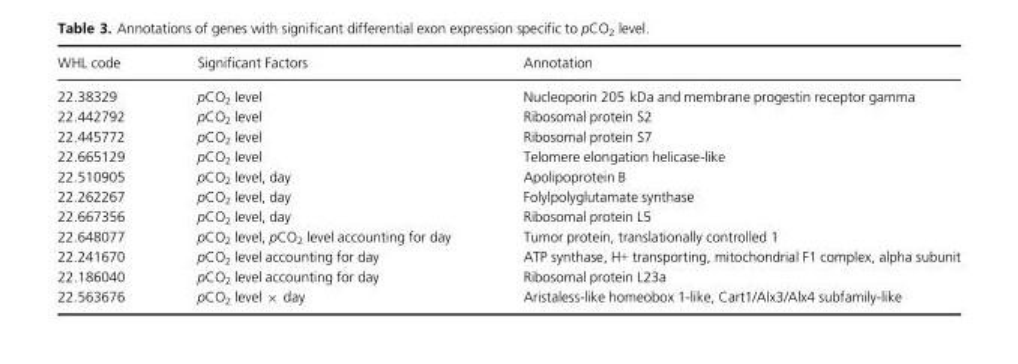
<table><thead><tr><td>WHL code</td><td>Significant Factors</td><td>Annotation</td></tr></thead><tbody><tr><td>22.38329</td><td>pCO<sub>2</sub> level</td><td>Nucleoporin 205 kDa and membrane progestin receptor gamma</td></tr><tr><td>22.442792</td><td>pCO<sub>2</sub> level</td><td>Ribosomal protein S2</td></tr><tr><td>22.445772</td><td>pCO<sub>2</sub> level</td><td>Ribosomal protein S7</td></tr><tr><td>22.665129</td><td>pCO<sub>2</sub> level</td><td>Telomere elongation helicase-like</td></tr><tr><td>22.510905</td><td>pCO<sub>2</sub> level, day</td><td>Apolipoprotein B</td></tr><tr><td>22.262267</td><td>pCO<sub>2</sub> level, day</td><td>Folylpolyglutamate synthase</td></tr><tr><td>22.667356</td><td>pCO<sub>2</sub> level, day</td><td>Ribosomal protein L5</td></tr><tr><td>22.648077</td><td>pCO<sub>2</sub> level, pCO<sub>2</sub> level accounting for day</td><td>Tumor protein, translationally controlled 1</td></tr><tr><td>22.241670</td><td>pCO<sub>2</sub> level accounting for day</td><td>ATP synthase, H+ transporting, mitochondrial F1 complex, alpha subunit</td></tr><tr><td>22.186040</td><td>pCO<sub>2</sub> level accounting for day</td><td>Ribosomal protein L23a</td></tr><tr><td>22.563676</td><td>pCO<sub>2</sub> level × day</td><td>Aristaless-like homeobox 1-like, Cart1/Alx3/Alx4 subfamily-like</td></tr></tbody></table>